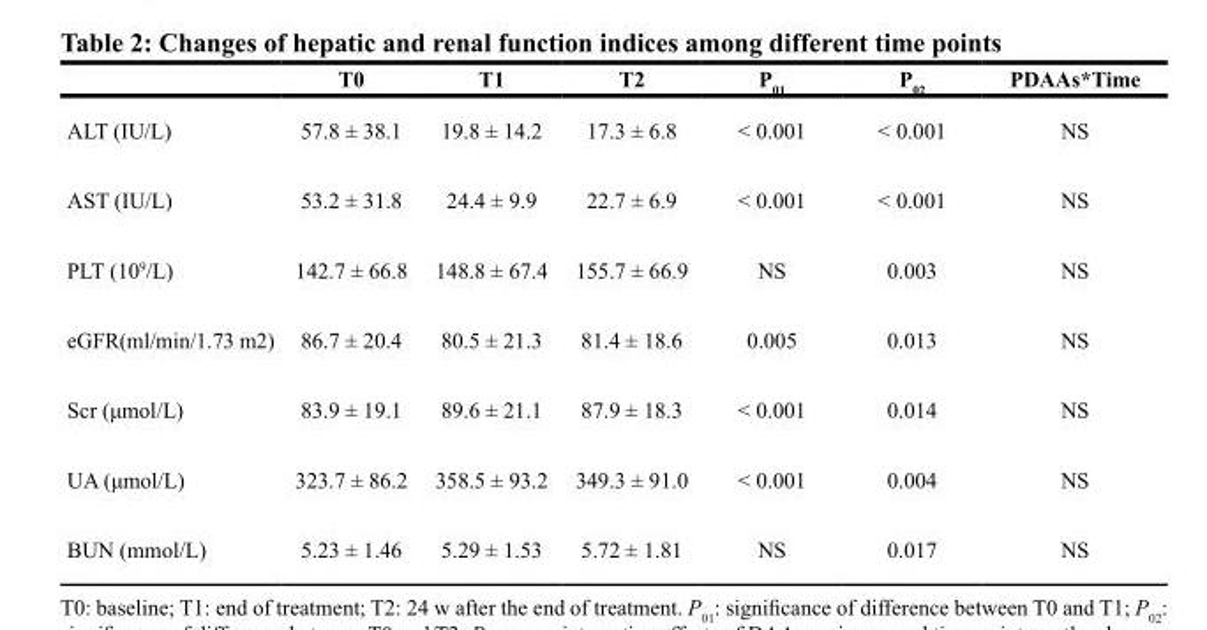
<table><thead><tr><td></td><td>T0</td><td>T1</td><td>T2</td><td>P<sub>01</sub></td><td>P<sub>02</sub></td><td>PDAAs*Time</td></tr></thead><tbody><tr><td>ALT (IU/L)</td><td>57.8 ± 38.1</td><td>19.8 ± 14.2</td><td>17.3 ± 6.8</td><td>&lt; 0.001</td><td>&lt; 0.001</td><td>NS</td></tr><tr><td>AST (IU/L)</td><td>53.2 ± 31.8</td><td>24.4 ± 9.9</td><td>22.7 ± 6.9</td><td>&lt; 0.001</td><td>&lt; 0.001</td><td>NS</td></tr><tr><td>PLT (10<sup>9</sup>/L)</td><td>142.7 ± 66.8</td><td>148.8 ± 67.4</td><td>155.7 ± 66.9</td><td>NS</td><td>0.003</td><td>NS</td></tr><tr><td>eGFR(ml/min/1.73 m2)</td><td>86.7 ± 20.4</td><td>80.5 ± 21.3</td><td>81.4 ± 18.6</td><td>0.005</td><td>0.013</td><td>NS</td></tr><tr><td>Scr (μmol/L)</td><td>83.9 ± 19.1</td><td>89.6 ± 21.1</td><td>87.9 ± 18.3</td><td>&lt; 0.001</td><td>0.014</td><td>NS</td></tr><tr><td>UA (μmol/L)</td><td>323.7 ± 86.2</td><td>358.5 ± 93.2</td><td>349.3 ± 91.0</td><td>&lt; 0.001</td><td>0.004</td><td>NS</td></tr><tr><td>BUN (mmol/L)</td><td>5.23 ± 1.46</td><td>5.29 ± 1.53</td><td>5.72 ± 1.81</td><td>NS</td><td>0.017</td><td>NS</td></tr></tbody></table>